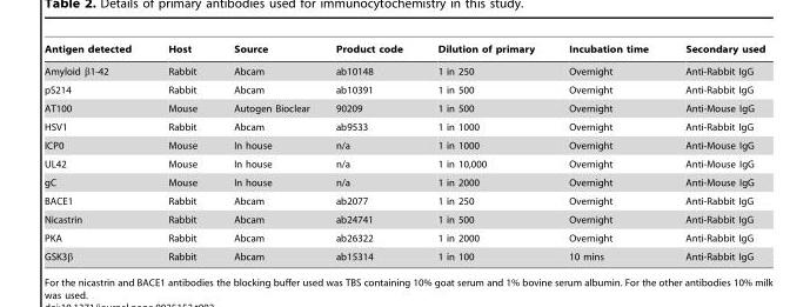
<table><thead><tr><td>Antigen detected</td><td>Host</td><td>Source</td><td>Product code</td><td>Dilution of primary</td><td>Incubation time</td><td>Secondary used</td></tr></thead><tbody><tr><td>Amyloid β1-42</td><td>Rabbit</td><td>Abcam</td><td>ab10148</td><td>1 in 250</td><td>Overnight</td><td>Anti-Rabbit IgG</td></tr><tr><td>pS214</td><td>Rabbit</td><td>Abcam</td><td>ab10391</td><td>1 in 500</td><td>Overnight</td><td>Anti-Rabbit IgG</td></tr><tr><td>AT100</td><td>Mouse</td><td>Autogen Bioclear</td><td>90209</td><td>1 in 500</td><td>Overnight</td><td>Anti-Mouse IgG</td></tr><tr><td>HSV1</td><td>Rabbit</td><td>Abcam</td><td>ab9533</td><td>1 in 1000</td><td>Overnight</td><td>Anti-Rabbit IgG</td></tr><tr><td>ICP0</td><td>Mouse</td><td>In house</td><td>n/a</td><td>1 in 1000</td><td>Overnight</td><td>Anti-Mouse IgG</td></tr><tr><td>UL42</td><td>Mouse</td><td>In house</td><td>n/a</td><td>1 in 10,000</td><td>Overnight</td><td>Anti-Mouse IgG</td></tr><tr><td>gC</td><td>Mouse</td><td>In house</td><td>n/a</td><td>1 in 2000</td><td>Overnight</td><td>Anti-Mouse IgG</td></tr><tr><td>BACE1</td><td>Rabbit</td><td>Abcam</td><td>ab2077</td><td>1 in 250</td><td>Overnight</td><td>Anti-Rabbit IgG</td></tr><tr><td>Nicastrin</td><td>Rabbit</td><td>Abcam</td><td>ab24741</td><td>1 in 500</td><td>Overnight</td><td>Anti-Rabbit IgG</td></tr><tr><td>PKA</td><td>Rabbit</td><td>Abcam</td><td>ab26322</td><td>1 in 2000</td><td>Overnight</td><td>Anti-Rabbit IgG</td></tr><tr><td>GSK3β</td><td>Rabbit</td><td>Abcam</td><td>ab15314</td><td>1 in 100</td><td>10 mins</td><td>Anti-Rabbit IgG</td></tr></tbody></table>